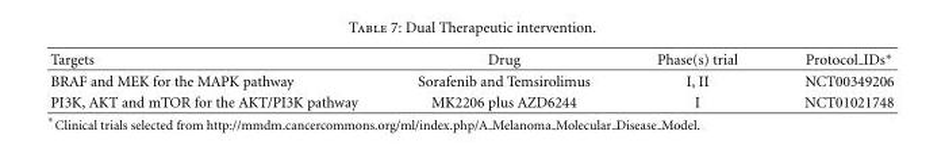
<table><thead><tr><td>Targets</td><td>Drug</td><td>Phase(s) trial</td><td>Protocol IDs∗</td></tr></thead><tbody><tr><td>BRAF and MEK for the MAPK pathway</td><td>Sorafenib and Temsirolimus</td><td>I, II</td><td>NCT00349206</td></tr><tr><td>PI3K, AKT and mTOR for the AKT/PI3K pathway</td><td>MK2206 plus AZD6244</td><td>I</td><td>NCT01021748</td></tr></tbody></table>